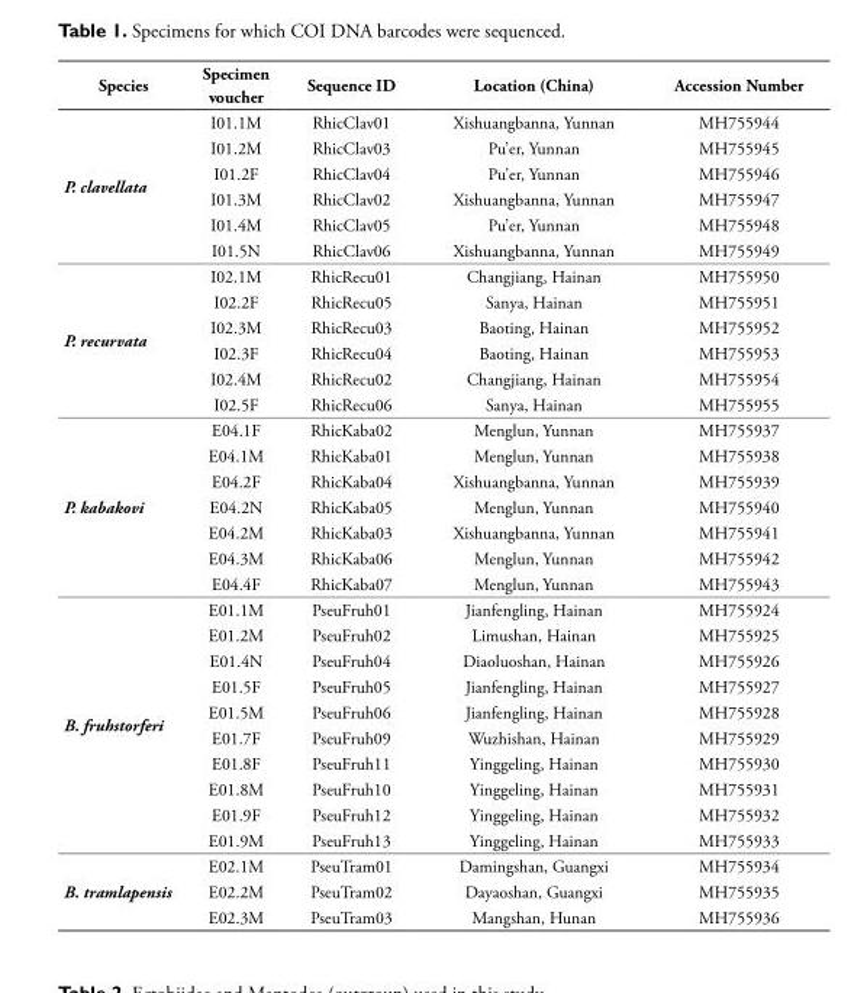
<table><thead><tr><td>Species</td><td>Specimen voucher</td><td>Sequence ID</td><td>Location (China)</td><td>Accession Number</td></tr></thead><tbody><tr><td rowspan="6">P. clavellata</td><td>I01.1M</td><td>RhicClav01</td><td>Xishuangbanna, Yunnan</td><td>MH755944</td></tr><tr><td>I01.2M</td><td>RhicClav03</td><td>Pu’er, Yunnan</td><td>MH755945</td></tr><tr><td>I01.2F</td><td>RhicClav04</td><td>Pu’er, Yunnan</td><td>MH755946</td></tr><tr><td>I01.3M</td><td>RhicClav02</td><td>Xishuangbanna, Yunnan</td><td>MH755947</td></tr><tr><td>I01.4M</td><td>RhicClav05</td><td>Pu’er, Yunnan</td><td>MH755948</td></tr><tr><td>I01.5N</td><td>RhicClav06</td><td>Xishuangbanna, Yunnan</td><td>MH755949</td></tr><tr><td rowspan="6">P. recurvata</td><td>I02.1M</td><td>RhicRecu01</td><td>Changjiang, Hainan</td><td>MH755950</td></tr><tr><td>I02.2F</td><td>RhicRecu05</td><td>Sanya, Hainan</td><td>MH755951</td></tr><tr><td>I02.3M</td><td>RhicRecu03</td><td>Baoting, Hainan</td><td>MH755952</td></tr><tr><td>I02.3F</td><td>RhicRecu04</td><td>Baoting, Hainan</td><td>MH755953</td></tr><tr><td>I02.4M</td><td>RhicRecu02</td><td>Changjiang, Hainan</td><td>MH755954</td></tr><tr><td>I02.5F</td><td>RhicRecu06</td><td>Sanya, Hainan</td><td>MH755955</td></tr><tr><td rowspan="7">P. kabakovi</td><td>E04.1F</td><td>RhicKaba02</td><td>Menglun, Yunnan</td><td>MH755937</td></tr><tr><td>E04.1M</td><td>RhicKaba01</td><td>Menglun, Yunnan</td><td>MH755938</td></tr><tr><td>E04.2F</td><td>RhicKaba04</td><td>Xishuangbanna, Yunnan</td><td>MH755939</td></tr><tr><td>E04.2N</td><td>RhicKaba05</td><td>Menglun, Yunnan</td><td>MH755940</td></tr><tr><td>E04.2M</td><td>RhicKaba03</td><td>Xishuangbanna, Yunnan</td><td>MH755941</td></tr><tr><td>E04.3M</td><td>RhicKaba06</td><td>Menglun, Yunnan</td><td>MH755942</td></tr><tr><td>E04.4F</td><td>RhicKaba07</td><td>Menglun, Yunnan</td><td>MH755943</td></tr><tr><td rowspan="10">B. fruhstorferi</td><td>E01.1M</td><td>PseuFruh01</td><td>Jianfengling, Hainan</td><td>MH755924</td></tr><tr><td>E01.2M</td><td>PseuFruh02</td><td>Limushan, Hainan</td><td>MH755925</td></tr><tr><td>E01.4N</td><td>PseuFruh04</td><td>Diaoluoshan, Hainan</td><td>MH755926</td></tr><tr><td>E01.5F</td><td>PseuFruh05</td><td>Jianfengling, Hainan</td><td>MH755927</td></tr><tr><td>E01.5M</td><td>PseuFruh06</td><td>Jianfengling, Hainan</td><td>MH755928</td></tr><tr><td>E01.7F</td><td>PseuFruh09</td><td>Wuzhishan, Hainan</td><td>MH755929</td></tr><tr><td>E01.8F</td><td>PseuFruh11</td><td>Yinggeling, Hainan</td><td>MH755930</td></tr><tr><td>E01.8M</td><td>PseuFruh10</td><td>Yinggeling, Hainan</td><td>MH755931</td></tr><tr><td>E01.9F</td><td>PseuFruh12</td><td>Yinggeling, Hainan</td><td>MH755932</td></tr><tr><td>E01.9M</td><td>PseuFruh13</td><td>Yinggeling, Hainan</td><td>MH755933</td></tr><tr><td rowspan="3">B. tramlapensis</td><td>E02.1M</td><td>PseuTram01</td><td>Damingshan, Guangxi</td><td>MH755934</td></tr><tr><td>E02.2M</td><td>PseuTram02</td><td>Dayaoshan, Guangxi</td><td>MH755935</td></tr><tr><td>E02.3M</td><td>PseuTram03</td><td>Mangshan, Hunan</td><td>MH755936</td></tr></tbody></table>